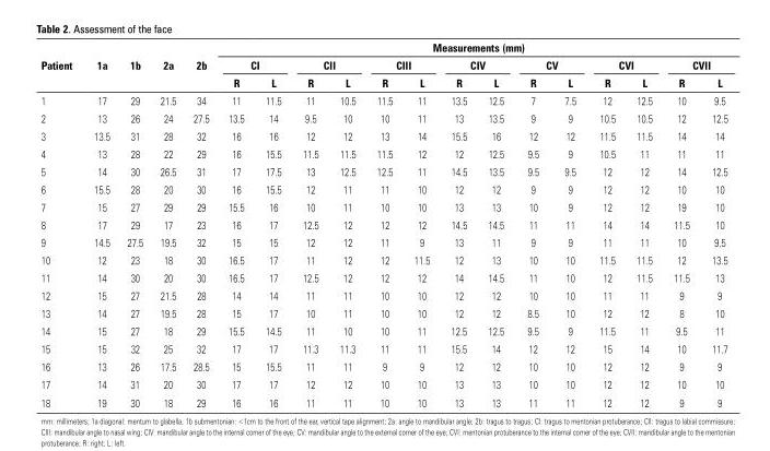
<table><thead><tr><td rowspan="3">Patient</td><td rowspan="3">1a</td><td rowspan="3">1b</td><td rowspan="3">2a</td><td rowspan="3">2b</td><td colspan="14">Measurements (mm)</td></tr><tr><td colspan="2">CI</td><td colspan="2">CII</td><td colspan="2">CIII</td><td colspan="2">CIV</td><td colspan="2">CV</td><td colspan="2">CVI</td><td colspan="2">CVII</td></tr><tr><td>R</td><td>L</td><td>R</td><td>L</td><td>R</td><td>L</td><td>R</td><td>L</td><td>R</td><td>L</td><td>R</td><td>L</td><td>R</td><td>L</td></tr></thead><tbody><tr><td>1</td><td>17</td><td>29</td><td>21.5</td><td>34</td><td>11</td><td>11.5</td><td>11</td><td>10.5</td><td>11.5</td><td>11</td><td>13.5</td><td>12.5</td><td>7</td><td>7.5</td><td>12</td><td>12.5</td><td>10</td><td>9.5</td></tr><tr><td>2</td><td>13</td><td>26</td><td>24</td><td>27.5</td><td>13.5</td><td>14</td><td>9.5</td><td>10</td><td>10</td><td>11</td><td>13</td><td>13.5</td><td>9</td><td>9</td><td>10.5</td><td>10.5</td><td>12</td><td>12.5</td></tr><tr><td>3</td><td>13.5</td><td>31</td><td>28</td><td>32</td><td>16</td><td>16</td><td>12</td><td>12</td><td>13</td><td>14</td><td>15.5</td><td>16</td><td>12</td><td>12</td><td>11.5</td><td>11.5</td><td>14</td><td>14</td></tr><tr><td>4</td><td>13</td><td>28</td><td>22</td><td>29</td><td>16</td><td>15.5</td><td>11.5</td><td>11.5</td><td>11.5</td><td>12</td><td>12</td><td>12.5</td><td>9.5</td><td>9</td><td>10.5</td><td>11</td><td>11</td><td>11</td></tr><tr><td>5</td><td>14</td><td>30</td><td>26.5</td><td>31</td><td>17</td><td>17.5</td><td>13</td><td>12.5</td><td>12.5</td><td>11</td><td>14.5</td><td>13.5</td><td>9.5</td><td>9.5</td><td>12</td><td>12</td><td>14</td><td>12.5</td></tr><tr><td>6</td><td>15.5</td><td>28</td><td>20</td><td>30</td><td>16</td><td>15.5</td><td>12</td><td>11</td><td>11</td><td>10</td><td>12</td><td>12</td><td>9</td><td>9</td><td>12</td><td>12</td><td>10</td><td>10</td></tr><tr><td>7</td><td>15</td><td>27</td><td>29</td><td>29</td><td>15.5</td><td>16</td><td>10</td><td>11</td><td>10</td><td>10</td><td>13</td><td>13</td><td>10</td><td>9</td><td>12</td><td>12</td><td>19</td><td>10</td></tr><tr><td>8</td><td>17</td><td>29</td><td>17</td><td>23</td><td>16</td><td>17</td><td>12.5</td><td>12</td><td>12</td><td>12</td><td>14.5</td><td>14.5</td><td>11</td><td>11</td><td>14</td><td>14</td><td>11.5</td><td>10</td></tr><tr><td>9</td><td>14.5</td><td>27.5</td><td>19.5</td><td>32</td><td>15</td><td>15</td><td>12</td><td>12</td><td>11</td><td>9</td><td>13</td><td>11</td><td>9</td><td>9</td><td>11</td><td>11</td><td>10</td><td>9.5</td></tr><tr><td>10</td><td>12</td><td>23</td><td>18</td><td>30</td><td>16.5</td><td>17</td><td>11</td><td>12</td><td>12</td><td>11.5</td><td>12</td><td>13</td><td>10</td><td>10</td><td>11.5</td><td>11.5</td><td>12</td><td>13.5</td></tr><tr><td>11</td><td>14</td><td>30</td><td>20</td><td>30</td><td>16.5</td><td>17</td><td>12.5</td><td>12</td><td>12</td><td>12</td><td>14</td><td>14.5</td><td>11</td><td>10</td><td>12</td><td>11.5</td><td>11.5</td><td>13</td></tr><tr><td>12</td><td>15</td><td>27</td><td>21.5</td><td>28</td><td>14</td><td>14</td><td>11</td><td>11</td><td>10</td><td>10</td><td>12</td><td>12</td><td>10</td><td>10</td><td>11</td><td>11</td><td>9</td><td>9</td></tr><tr><td>13</td><td>14</td><td>27</td><td>19.5</td><td>28</td><td>15</td><td>17</td><td>10</td><td>11</td><td>10</td><td>10</td><td>12</td><td>12</td><td>8.5</td><td>10</td><td>12</td><td>12</td><td>8</td><td>10</td></tr><tr><td>14</td><td>15</td><td>27</td><td>18</td><td>29</td><td>15.5</td><td>14.5</td><td>11</td><td>10</td><td>10</td><td>11</td><td>12.5</td><td>12.5</td><td>9.5</td><td>9</td><td>11.5</td><td>11</td><td>9.5</td><td>11</td></tr><tr><td>15</td><td>15</td><td>32</td><td>25</td><td>32</td><td>17</td><td>17</td><td>11.3</td><td>11.3</td><td>11</td><td>11</td><td>15.5</td><td>14</td><td>12</td><td>12</td><td>15</td><td>14</td><td>10</td><td>11.7</td></tr><tr><td>16</td><td>13</td><td>26</td><td>17.5</td><td>28.5</td><td>15</td><td>15.5</td><td>11</td><td>11</td><td>9</td><td>9</td><td>12</td><td>12</td><td>10</td><td>10</td><td>12</td><td>12</td><td>9</td><td>9</td></tr><tr><td>17</td><td>14</td><td>31</td><td>20</td><td>30</td><td>17</td><td>17</td><td>12</td><td>12</td><td>10</td><td>10</td><td>13</td><td>13</td><td>10</td><td>10</td><td>12</td><td>12</td><td>10</td><td>10</td></tr><tr><td>18</td><td>19</td><td>30</td><td>18</td><td>29</td><td>16</td><td>16</td><td>11</td><td>11</td><td>10</td><td>10</td><td>13</td><td>13</td><td>11</td><td>11</td><td>12</td><td>12</td><td>9</td><td>9</td></tr></tbody></table>